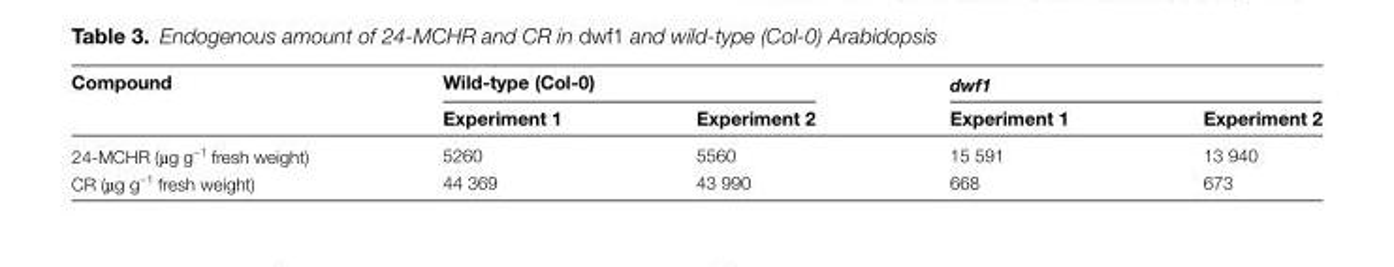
<table><thead><tr><td rowspan="2">Compound</td><td colspan="2">Wild-type (Col-0)</td><td colspan="2">dwf1</td></tr><tr><td>Experiment 1</td><td>Experiment 2</td><td>Experiment 1</td><td>Experiment 2</td></tr></thead><tbody><tr><td>24-MCHR (µg g<sup>−1</sup> fresh weight)</td><td>5260</td><td>5560</td><td>15 591</td><td>13 940</td></tr><tr><td>CR (µg g<sup>−1</sup> fresh weight)</td><td>44 369</td><td>43 990</td><td>668</td><td>673</td></tr></tbody></table>